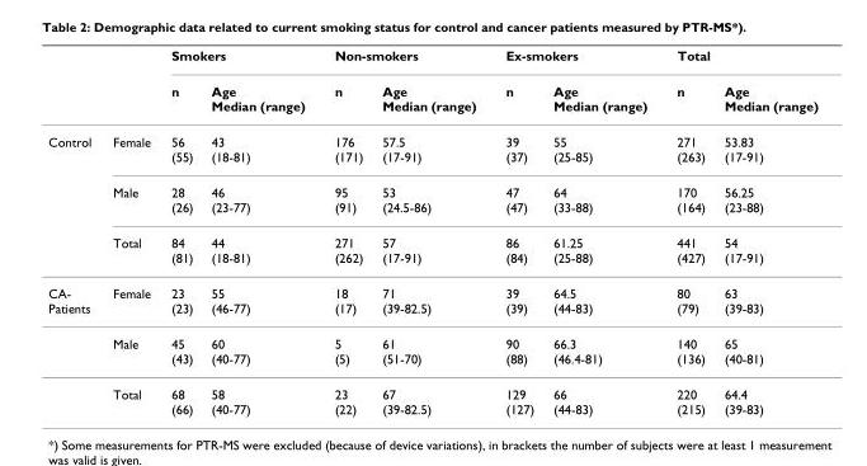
<table><thead><tr><td rowspan="2"></td><td rowspan="2"></td><td colspan="2">Smokers</td><td colspan="2">Non-smokers</td><td colspan="2">Ex-smokers</td><td colspan="2">Total</td></tr><tr><td>n</td><td>Age Median (range)</td><td>n</td><td>Age Median (range)</td><td>n</td><td>Age Median (range)</td><td>n</td><td>Age Median (range)</td></tr></thead><tbody><tr><td rowspan="3">Control</td><td>Female</td><td>56 (55)</td><td>43 (18-81)</td><td>176 (171)</td><td>57.5 (17-91)</td><td>39 (37)</td><td>55 (25-85)</td><td>271 (263)</td><td>53.83 (17-91)</td></tr><tr><td>Male</td><td>28 (26)</td><td>46 (23-77)</td><td>95 (91)</td><td>53 (24.5-86)</td><td>47 (47)</td><td>64 (33-88)</td><td>170 (164)</td><td>56.25 (23-88)</td></tr><tr><td>Total</td><td>84 (81)</td><td>44 (18-81)</td><td>271 (262)</td><td>57 (17-91)</td><td>86 (84)</td><td>61.25 (25-88)</td><td>441 (427)</td><td>54 (17-91)</td></tr><tr><td rowspan="3">CA- Patients</td><td>Female</td><td>23 (23)</td><td>55 (46-77)</td><td>18 (17)</td><td>71 (39-82.5)</td><td>39 (39)</td><td>64.5 (44-83)</td><td>80 (79)</td><td>63 (39-83)</td></tr><tr><td>Male</td><td>45 (43)</td><td>60 (40-77)</td><td>5 (5)</td><td>61 (51-70)</td><td>90 (88)</td><td>66.3 (46.4-81)</td><td>140 (136)</td><td>65 (40-81)</td></tr><tr><td>Total</td><td>68 (66)</td><td>58 (40-77)</td><td>23 (22)</td><td>67 (39-82.5)</td><td>129 (127)</td><td>66 (44-83)</td><td>220 (215)</td><td>64.4 (39-83)</td></tr></tbody></table>